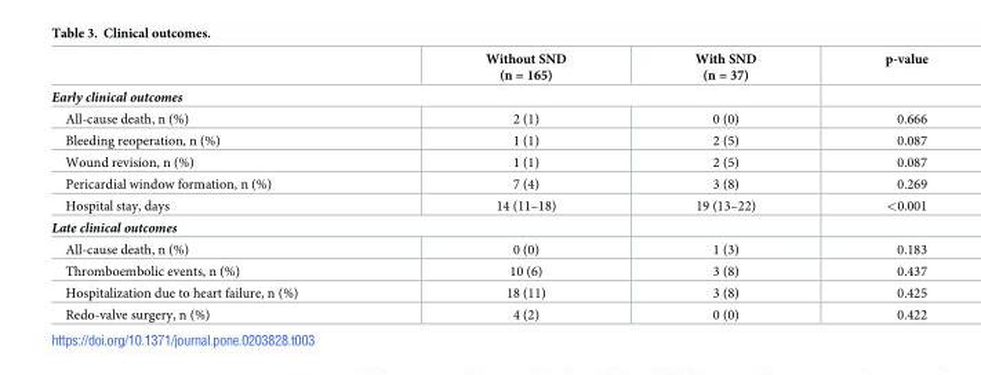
<table><thead><tr><td></td><td>Without SND (n = 165)</td><td>With SND (n = 37)</td><td>p-value</td></tr></thead><tbody><tr><td colspan="4">Early clinical outcomes</td></tr><tr><td>All-cause death, n (%)</td><td>2 (1)</td><td>0 (0)</td><td>0.666</td></tr><tr><td>Bleeding reoperation, n (%)</td><td>1 (1)</td><td>2 (5)</td><td>0.087</td></tr><tr><td>Wound revision, n (%)</td><td>1 (1)</td><td>2 (5)</td><td>0.087</td></tr><tr><td>Pericardial window formation, n (%)</td><td>7 (4)</td><td>3 (8)</td><td>0.269</td></tr><tr><td>Hospital stay, days</td><td>14 (11–18)</td><td>19 (13–22)</td><td>&lt;0.001</td></tr><tr><td colspan="4">Late clinical outcomes</td></tr><tr><td>All-cause death, n (%)</td><td>0 (0)</td><td>1 (3)</td><td>0.183</td></tr><tr><td>Thromboembolic events, n (%)</td><td>10 (6)</td><td>3 (8)</td><td>0.437</td></tr><tr><td>Hospitalization due to heart failure, n (%)</td><td>18 (11)</td><td>3 (8)</td><td>0.425</td></tr><tr><td>Redo-valve surgery, n (%)</td><td>4 (2)</td><td>0 (0)</td><td>0.422</td></tr></tbody></table>